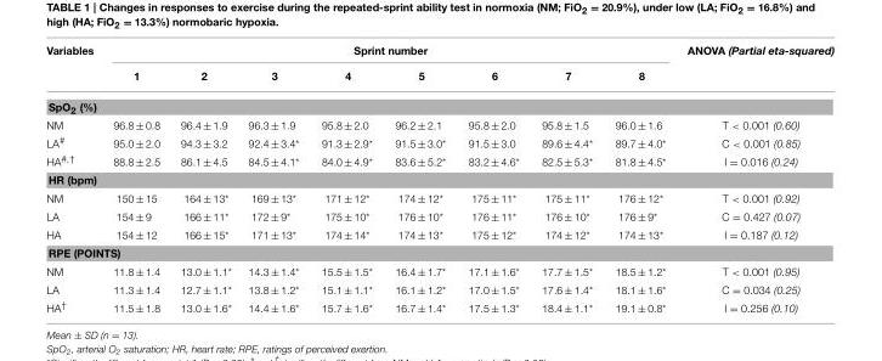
<table><thead><tr><td rowspan="2">Variables</td><td colspan="8">Sprint number</td><td rowspan="2">ANOVA (Partial eta-squared)</td></tr><tr><td>1</td><td>2</td><td>3</td><td>4</td><td>5</td><td>6</td><td>7</td><td>8</td></tr></thead><tbody><tr><td colspan="10">SpO<sub>2</sub> (%)</td></tr><tr><td>NM</td><td>96.8 ± 0.8</td><td>96.4 ± 1.9</td><td>96.3 ± 1.9</td><td>95.8 ± 2.0</td><td>96.2 ± 2.1</td><td>95.8 ± 2.0</td><td>95.8 ± 1.5</td><td>96.0 ± 1.6</td><td>T &lt; 0.001 (0.60)</td></tr><tr><td>LA<sup>#</sup></td><td>95.0 ± 2.0</td><td>94.3 ± 3.2</td><td>92.4 ± 3.4*</td><td>91.3 ± 2.9*</td><td>91.5 ± 3.0*</td><td>91.5 ± 3.0</td><td>89.6 ± 4.4*</td><td>89.7 ± 4.0*</td><td>C &lt; 0.001 (0.85)</td></tr><tr><td>HA<sup>#,†</sup></td><td>88.8 ± 2.5</td><td>86.1 ± 4.5</td><td>84.5 ± 4.1*</td><td>84.0 ± 4.9*</td><td>83.6 ± 5.2*</td><td>83.2 ± 4.6*</td><td>82.5 ± 5.3*</td><td>81.8 ± 4.5*</td><td>I = 0.016 (0.24)</td></tr><tr><td colspan="10">HR (bpm)</td></tr><tr><td>NM</td><td>150 ± 15</td><td>164 ± 13*</td><td>169 ± 13*</td><td>171 ± 12*</td><td>174 ± 12*</td><td>175 ± 11*</td><td>175 ± 11*</td><td>176 ± 12*</td><td>T &lt; 0.001 (0.92)</td></tr><tr><td>LA</td><td>154 ± 9</td><td>166 ± 11*</td><td>172 ± 9*</td><td>175 ± 10*</td><td>176 ± 10*</td><td>176 ± 11*</td><td>176 ± 10*</td><td>176 ± 9*</td><td>C = 0.427 (0.07)</td></tr><tr><td>HA</td><td>154 ± 12</td><td>166 ± 15*</td><td>171 ± 13*</td><td>174 ± 14*</td><td>174 ± 13*</td><td>175 ± 12*</td><td>174 ± 12*</td><td>174 ± 13*</td><td>I = 0.187 (0.12)</td></tr><tr><td colspan="10">RPE (POINTS)</td></tr><tr><td>NM</td><td>11.8 ± 1.4</td><td>13.0 ± 1.1*</td><td>14.3 ± 1.4*</td><td>15.5 ± 1.5*</td><td>16.4 ± 1.7*</td><td>17.1 ± 1.6*</td><td>17.7 ± 1.5*</td><td>18.5 ± 1.2*</td><td>T &lt; 0.001 (0.95)</td></tr><tr><td>LA</td><td>11.3 ± 1.4</td><td>12.7 ± 1.1*</td><td>13.8 ± 1.2*</td><td>15.1 ± 1.1*</td><td>16.1 ± 1.2*</td><td>17.0 ± 1.5*</td><td>17.6 ± 1.4*</td><td>18.1 ± 1.6*</td><td>C = 0.034 (0.25)</td></tr><tr><td>HA<sup>†</sup></td><td>11.5 ± 1.8</td><td>13.0 ± 1.6*</td><td>14.4 ± 1.6*</td><td>15.7 ± 1.6*</td><td>16.7 ± 1.4*</td><td>17.5 ± 1.3*</td><td>18.4 ± 1.1*</td><td>19.1 ± 0.8*</td><td>I = 0.256 (0.10)</td></tr></tbody></table>